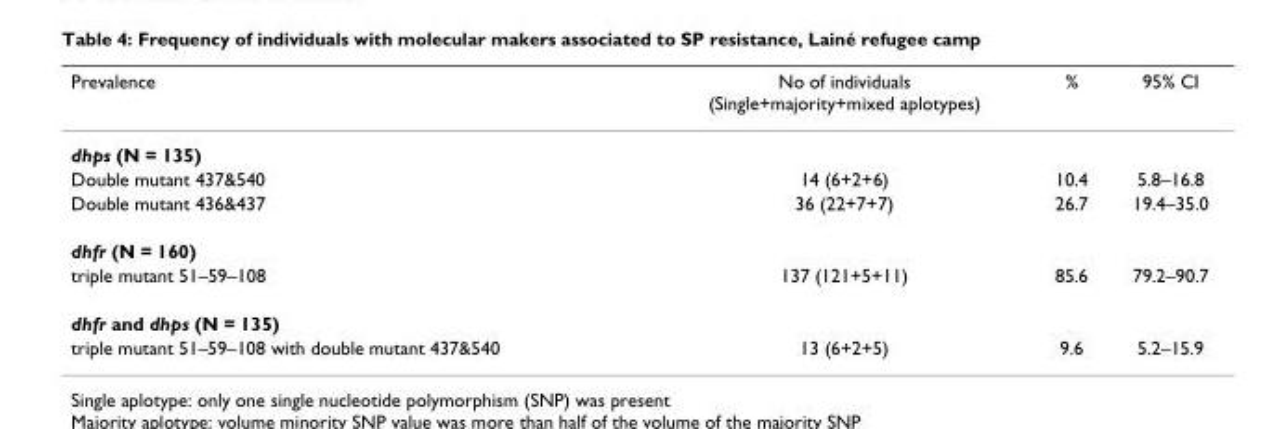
<table><thead><tr><td>Prevalence</td><td>No of individuals (Single+majority+mixed aplotypes)</td><td>%</td><td>95% CI</td></tr></thead><tbody><tr><td colspan="4">dhps (N = 135)</td></tr><tr><td>Double mutant 437&amp;540</td><td>14 (6+2+6)</td><td>10.4</td><td>5.8–16.8</td></tr><tr><td>Double mutant 436&amp;437</td><td>36 (22+7+7)</td><td>26.7</td><td>19.4–35.0</td></tr><tr><td colspan="4">dhfr (N = 160)</td></tr><tr><td>triple mutant 51–59–108</td><td>137 (121+5+11)</td><td>85.6</td><td>79.2–90.7</td></tr><tr><td colspan="4">dhfr and dhps (N = 135)</td></tr><tr><td>triple mutant 51–59–108 with double mutant 437&amp;540</td><td>13 (6+2+5)</td><td>9.6</td><td>5.2–15.9</td></tr></tbody></table>